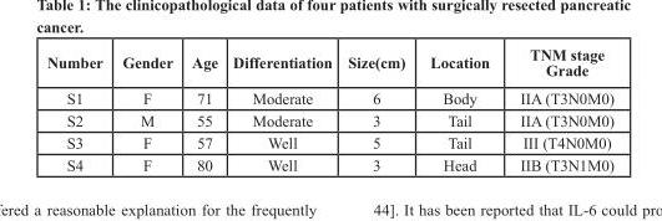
<table><thead><tr><td>Number</td><td>Gender</td><td>Age</td><td>Differentiation</td><td>Size(cm)</td><td>Location</td><td>TNM stage Grade</td></tr></thead><tbody><tr><td>S1</td><td>F</td><td>71</td><td>Moderate</td><td>6</td><td>Body</td><td>IIA (T3N0M0)</td></tr><tr><td>S2</td><td>M</td><td>55</td><td>Moderate</td><td>3</td><td>Tail</td><td>IIA (T3N0M0)</td></tr><tr><td>S3</td><td>F</td><td>57</td><td>Well</td><td>5</td><td>Tail</td><td>III (T4N0M0)</td></tr><tr><td>S4</td><td>F</td><td>80</td><td>Well</td><td>3</td><td>Head</td><td>IIB (T3N1M0)</td></tr></tbody></table>